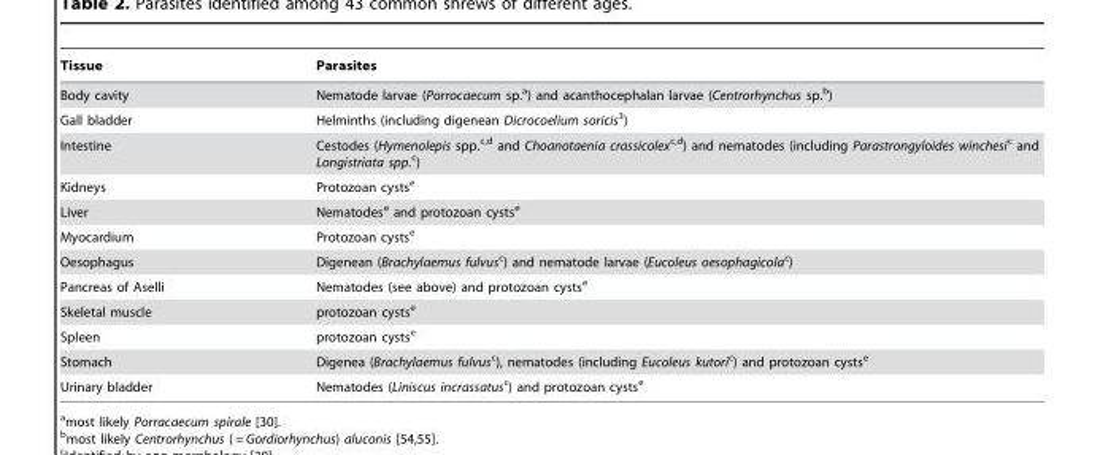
<table><thead><tr><td>Tissue</td><td>Parasites</td></tr></thead><tbody><tr><td>Body cavity</td><td>Nematode larvae (Porrocaecum sp.<sup>a</sup>) and acanthocephalan larvae (Centrorhynchus sp.<sup>b</sup>)</td></tr><tr><td>Gall bladder</td><td>Helminths (including digenean Dicrocoelium soricis<sup>3</sup>)</td></tr><tr><td>Intestine</td><td>Cestodes (Hymenolepis spp.<sup>c,</sup>d and Choanotaenia crassicolexc<sup>,</sup>d) and nematodes (including Parastrongyloides winchesic and Longistriata spp.c)</td></tr><tr><td>Kidneys</td><td>Protozoan cysts<sup>e</sup></td></tr><tr><td>Liver</td><td>Nematodes<sup>e</sup> and protozoan cysts<sup>e</sup></td></tr><tr><td>Myocardium</td><td>Protozoan cysts<sup>e</sup></td></tr><tr><td>Oesophagus</td><td>Digenean (Brachylaemus fulvusc) and nematode larvae (Eucoleus oesophagicolac)</td></tr><tr><td>Pancreas of Aselli</td><td>Nematodes (see above) and protozoan cysts<sup>e</sup></td></tr><tr><td>Skeletal muscle</td><td>protozoan cysts<sup>e</sup></td></tr><tr><td>Spleen</td><td>protozoan cysts<sup>e</sup></td></tr><tr><td>Stomach</td><td>Digenea (Brachylaemus fulvusc), nematodes (including Eucoleus kutoric) and protozoan cysts<sup>e</sup></td></tr><tr><td>Urinary bladder</td><td>Nematodes (Liniscus incrassatusc) and protozoan cysts<sup>e</sup></td></tr></tbody></table>